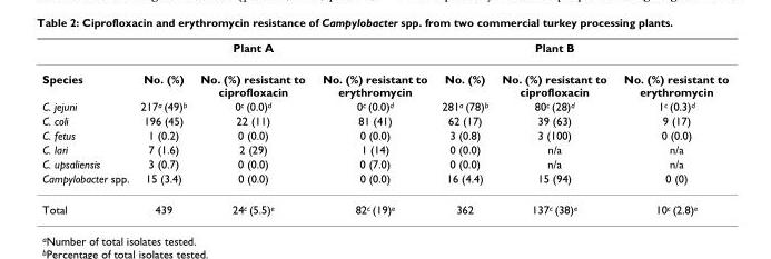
<table><thead><tr><td></td><td></td><td>Plant A</td><td></td><td></td><td>Plant B</td><td></td></tr></thead><tbody><tr><td>Species</td><td>No. (%)</td><td>No. (%) resistant to ciprofloxacin</td><td>No. (%) resistant to erythromycin</td><td>No. (%)</td><td>No. (%) resistant to ciprofloxacin</td><td>No. (%) resistant to erythromycin</td></tr><tr><td>C. jejuni</td><td>217<sup>a</sup> (49)<sup>b</sup></td><td>0<sup>c</sup> (0.0)<sup>d</sup></td><td>0<sup>c</sup> (0.0)<sup>d</sup></td><td>281<sup>a</sup> (78)<sup>b</sup></td><td>80<sup>c</sup> (28)<sup>d</sup></td><td>1<sup>c</sup> (0.3)<sup>d</sup></td></tr><tr><td>C. coli</td><td>196 (45)</td><td>22 (11)</td><td>81 (41)</td><td>62 (17)</td><td>39 (63)</td><td>9 (17)</td></tr><tr><td>C. fetus</td><td>1 (0.2)</td><td>0 (0.0)</td><td>0 (0.0)</td><td>3 (0.8)</td><td>3 (100)</td><td>0 (0.0)</td></tr><tr><td>C. lari</td><td>7 (1.6)</td><td>2 (29)</td><td>1 (14)</td><td>0 (0.0)</td><td>n/a</td><td>n/a</td></tr><tr><td>C. upsaliensis</td><td>3 (0.7)</td><td>0 (0.0)</td><td>0 (7.0)</td><td>0 (0.0)</td><td>n/a</td><td>n/a</td></tr><tr><td>Campylobacter spp.</td><td>15 (3.4)</td><td>0 (0.0)</td><td>0 (0.0)</td><td>16 (4.4)</td><td>15 (94)</td><td>0 (0)</td></tr><tr><td>Total</td><td>439</td><td>24<sup>c</sup> (5.5)<sup>e</sup></td><td>82<sup>c</sup> (19)<sup>e</sup></td><td>362</td><td>137<sup>c</sup> (38)<sup>e</sup></td><td>10<sup>c</sup> (2.8)<sup>e</sup></td></tr></tbody></table>